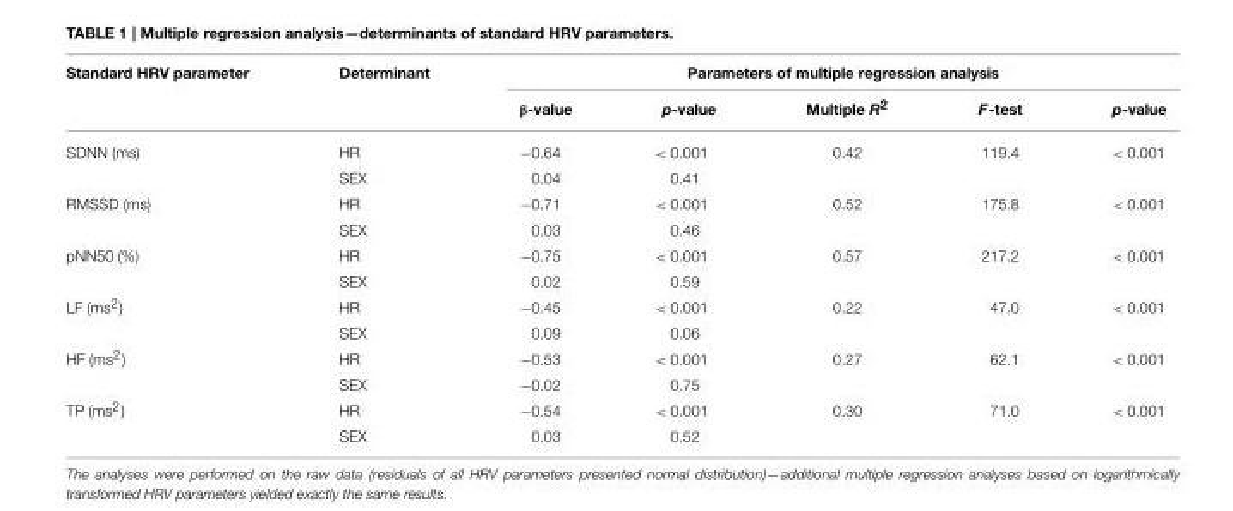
<table><thead><tr><td rowspan="2">Standard HRV parameter</td><td rowspan="2">Determinant</td><td colspan="5">Parameters of multiple regression analysis</td></tr><tr><td>β-value</td><td>p-value</td><td>Multiple R<sup>2</sup></td><td>F-test</td><td>p-value</td></tr></thead><tbody><tr><td rowspan="2">SDNN (ms)</td><td>HR</td><td>−0.64</td><td>&lt; 0.001</td><td>0.42</td><td>119.4</td><td>&lt; 0.001</td></tr><tr><td>SEX</td><td>0.04</td><td>0.41</td><td></td><td></td><td></td></tr><tr><td rowspan="2">RMSSD (ms)</td><td>HR</td><td>−0.71</td><td>&lt; 0.001</td><td>0.52</td><td>175.8</td><td>&lt; 0.001</td></tr><tr><td>SEX</td><td>0.03</td><td>0.46</td><td></td><td></td><td></td></tr><tr><td rowspan="2">pNN50 (%)</td><td>HR</td><td>−0.75</td><td>&lt; 0.001</td><td>0.57</td><td>217.2</td><td>&lt; 0.001</td></tr><tr><td>SEX</td><td>0.02</td><td>0.59</td><td></td><td></td><td></td></tr><tr><td rowspan="2">LF (ms<sup>2</sup>)</td><td>HR</td><td>−0.45</td><td>&lt; 0.001</td><td>0.22</td><td>47.0</td><td>&lt; 0.001</td></tr><tr><td>SEX</td><td>0.09</td><td>0.06</td><td></td><td></td><td></td></tr><tr><td rowspan="2">HF (ms<sup>2</sup>)</td><td>HR</td><td>−0.53</td><td>&lt; 0.001</td><td>0.27</td><td>62.1</td><td>&lt; 0.001</td></tr><tr><td>SEX</td><td>−0.02</td><td>0.75</td><td></td><td></td><td></td></tr><tr><td rowspan="2">TP (ms<sup>2</sup>)</td><td>HR</td><td>−0.54</td><td>&lt; 0.001</td><td>0.30</td><td>71.0</td><td>&lt; 0.001</td></tr><tr><td>SEX</td><td>0.03</td><td>0.52</td><td></td><td></td><td></td></tr></tbody></table>